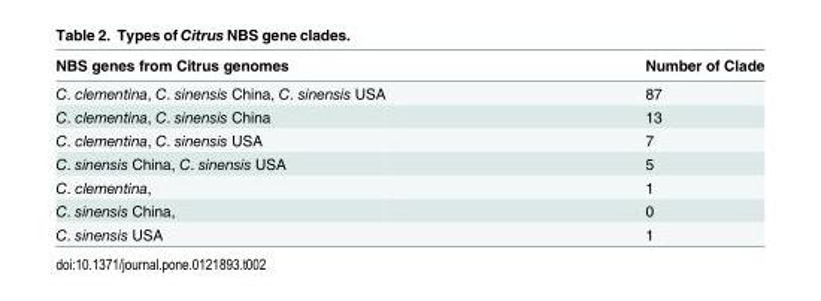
<table><thead><tr><td>NBS genes from Citrus genomes</td><td>Number of Clade</td></tr></thead><tbody><tr><td>C. clementina, C. sinensis China, C. sinensis USA</td><td>87</td></tr><tr><td>C. clementina, C. sinensis China</td><td>13</td></tr><tr><td>C. clementina, C. sinensis USA</td><td>7</td></tr><tr><td>C. sinensis China, C. sinensis USA</td><td>5</td></tr><tr><td>C. clementina,</td><td>1</td></tr><tr><td>C. sinensis China,</td><td>0</td></tr><tr><td>C. sinensis USA</td><td>1</td></tr></tbody></table>